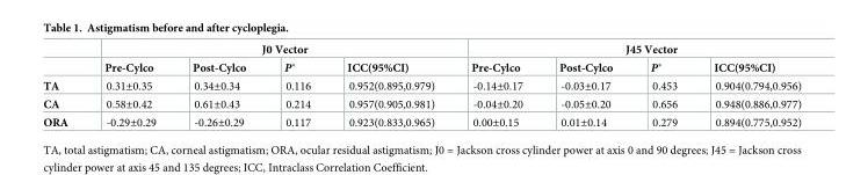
<table><thead><tr><td rowspan="2"></td><td colspan="4">J0 Vector</td><td colspan="4">J45 Vector</td></tr><tr><td>Pre-Cylco</td><td>Post-Cylco</td><td>P*</td><td>ICC(95%CI)</td><td>Pre-Cylco</td><td>Post-Cylco</td><td>P*</td><td>ICC(95%CI)</td></tr></thead><tbody><tr><td>TA</td><td>0.31±0.35</td><td>0.34±0.34</td><td>0.116</td><td>0.952(0.895,0.979)</td><td>-0.14±0.17</td><td>-0.03±0.17</td><td>0.453</td><td>0.904(0.794,0.956)</td></tr><tr><td>CA</td><td>0.58±0.42</td><td>0.61±0.43</td><td>0.214</td><td>0.957(0.905,0.981)</td><td>-0.04±0.20</td><td>-0.05±0.20</td><td>0.656</td><td>0.948(0.886,0.977)</td></tr><tr><td>ORA</td><td>-0.29±0.29</td><td>-0.26±0.29</td><td>0.117</td><td>0.923(0.833,0.965)</td><td>0.00±0.15</td><td>0.01±0.14</td><td>0.279</td><td>0.894(0.775,0.952)</td></tr></tbody></table>